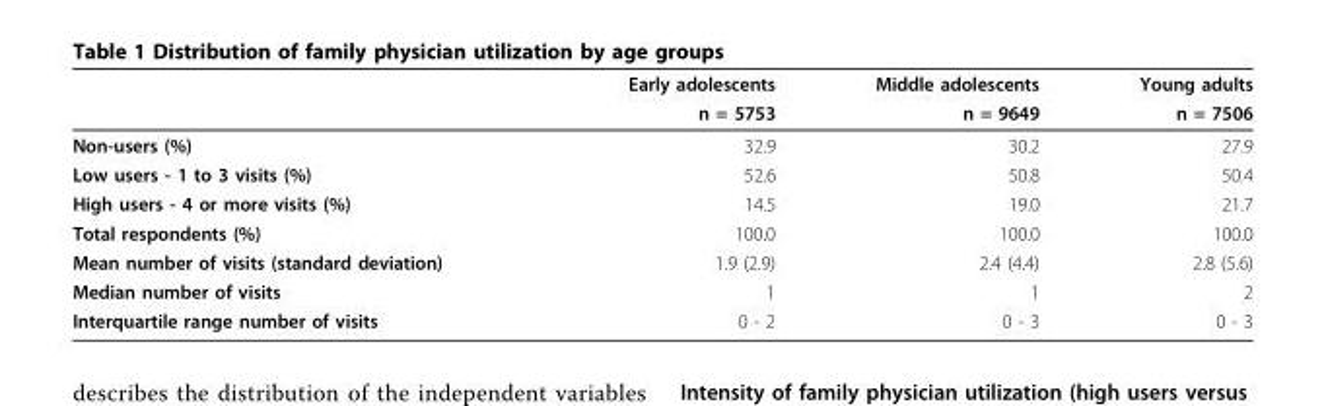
<table><thead><tr><td rowspan="2"></td><td rowspan="2">Early adolescents n = 5753</td><td rowspan="2">Middle adolescents n = 9649</td><td rowspan="2">Young adults n = 7506</td></tr><tr></tr></thead><tbody><tr><td>Non-users (%)</td><td>32.9</td><td>30.2</td><td>27.9</td></tr><tr><td>Low users - 1 to 3 visits (%)</td><td>52.6</td><td>50.8</td><td>50.4</td></tr><tr><td>High users - 4 or more visits (%)</td><td>14.5</td><td>19.0</td><td>21.7</td></tr><tr><td>Total respondents (%)</td><td>100.0</td><td>100.0</td><td>100.0</td></tr><tr><td>Mean number of visits (standard deviation)</td><td>1.9 (2.9)</td><td>2.4 (4.4)</td><td>2.8 (5.6)</td></tr><tr><td>Median number of visits</td><td>1</td><td>1</td><td>2</td></tr><tr><td>Interquartile range number of visits</td><td>0 - 2</td><td>0 - 3</td><td>0 - 3</td></tr></tbody></table>